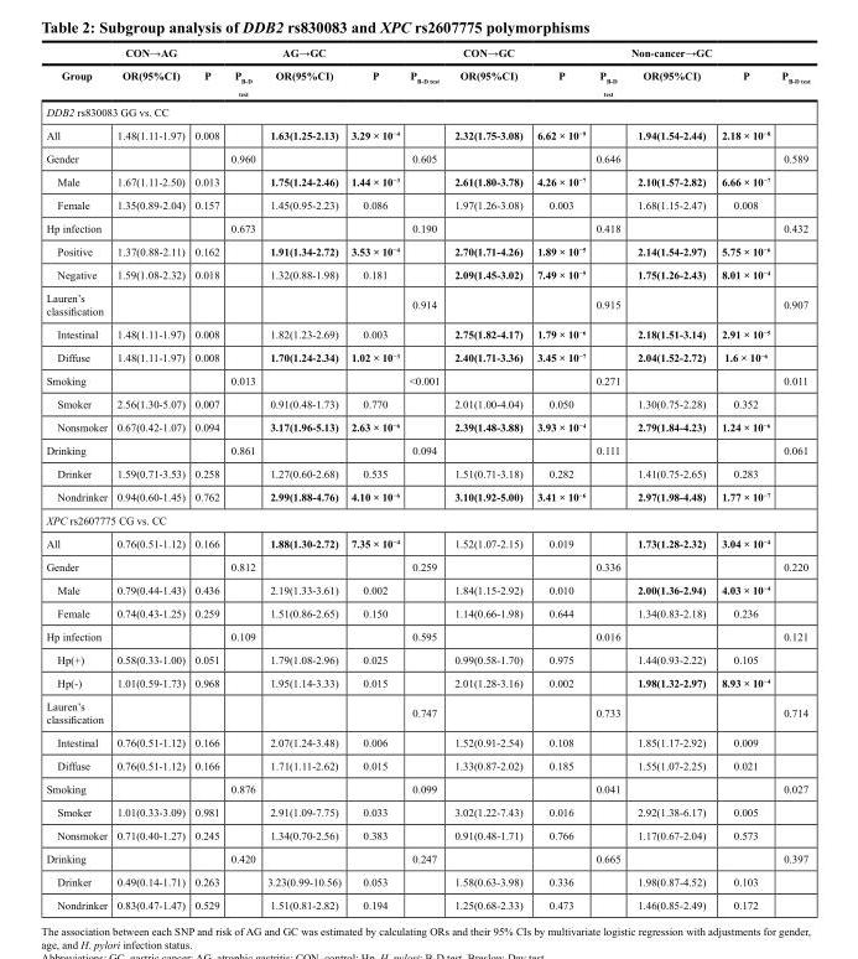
<table><thead><tr><td rowspan="2">Group</td><td colspan="3">CON→AG</td><td colspan="3">AG→GC</td><td colspan="3">CON→GC</td><td colspan="3">Non-cancer→GC</td></tr><tr><td>OR(95%CI)</td><td>P</td><td>P<sub>B-D test</sub></td><td>OR(95%CI)</td><td>P</td><td>P<sub>B-D test</sub></td><td>OR(95%CI)</td><td>P</td><td>P<sub>B-D test</sub></td><td>OR(95%CI)</td><td>P</td><td>P<sub>B-D test</sub></td></tr></thead><tbody><tr><td colspan="13">DDB2 rs830083 GG vs. CC</td></tr><tr><td>All</td><td>1.48(1.11-1.97)</td><td>0.008</td><td></td><td>1.63(1.25-2.13)</td><td>3.29 × 10<sup>−4</sup></td><td></td><td>2.32(1.75-3.08)</td><td>6.62 × 10<sup>−9</sup></td><td></td><td>1.94(1.54-2.44)</td><td>2.18 × 10<sup>−8</sup></td><td></td></tr><tr><td>Gender</td><td></td><td></td><td>0.960</td><td></td><td></td><td>0.605</td><td></td><td></td><td>0.646</td><td></td><td></td><td>0.589</td></tr><tr><td>Male</td><td>1.67(1.11-2.50)</td><td>0.013</td><td></td><td>1.75(1.24-2.46)</td><td>1.44 × 10<sup>−3</sup></td><td></td><td>2.61(1.80-3.78)</td><td>4.26 × 10<sup>−7</sup></td><td></td><td>2.10(1.57-2.82)</td><td>6.66 × 10<sup>−7</sup></td><td></td></tr><tr><td>Female</td><td>1.35(0.89-2.04)</td><td>0.157</td><td></td><td>1.45(0.95-2.23)</td><td>0.086</td><td></td><td>1.97(1.26-3.08)</td><td>0.003</td><td></td><td>1.68(1.15-2.47)</td><td>0.008</td><td></td></tr><tr><td>Hp infection</td><td></td><td></td><td>0.673</td><td></td><td></td><td>0.190</td><td></td><td></td><td>0.418</td><td></td><td></td><td>0.432</td></tr><tr><td>Positive</td><td>1.37(0.88-2.11)</td><td>0.162</td><td></td><td>1.91(1.34-2.72)</td><td>3.53 × 10<sup>−4</sup></td><td></td><td>2.70(1.71-4.26)</td><td>1.89 × 10<sup>−5</sup></td><td></td><td>2.14(1.54-2.97)</td><td>5.75 × 10<sup>−6</sup></td><td></td></tr><tr><td>Negative</td><td>1.59(1.08-2.32)</td><td>0.018</td><td></td><td>1.32(0.88-1.98)</td><td>0.181</td><td></td><td>2.09(1.45-3.02)</td><td>7.49 × 10<sup>−5</sup></td><td></td><td>1.75(1.26-2.43)</td><td>8.01 × 10<sup>−4</sup></td><td></td></tr><tr><td>Lauren’s classification</td><td></td><td></td><td></td><td></td><td></td><td>0.914</td><td></td><td></td><td>0.915</td><td></td><td></td><td>0.907</td></tr><tr><td>Intestinal</td><td>1.48(1.11-1.97)</td><td>0.008</td><td></td><td>1.82(1.23-2.69)</td><td>0.003</td><td></td><td>2.75(1.82-4.17)</td><td>1.79 × 10<sup>−6</sup></td><td></td><td>2.18(1.51-3.14)</td><td>2.91 × 10<sup>−5</sup></td><td></td></tr><tr><td>Diffuse</td><td>1.48(1.11-1.97)</td><td>0.008</td><td></td><td>1.70(1.24-2.34)</td><td>1.02 × 10<sup>−3</sup></td><td></td><td>2.40(1.71-3.36)</td><td>3.45 × 10<sup>−7</sup></td><td></td><td>2.04(1.52-2.72)</td><td>1.6 × 10<sup>−6</sup></td><td></td></tr><tr><td>Smoking</td><td></td><td></td><td>0.013</td><td></td><td></td><td>&lt;0.001</td><td></td><td></td><td>0.271</td><td></td><td></td><td>0.011</td></tr><tr><td>Smoker</td><td>2.56(1.30-5.07)</td><td>0.007</td><td></td><td>0.91(0.48-1.73)</td><td>0.770</td><td></td><td>2.01(1.00-4.04)</td><td>0.050</td><td></td><td>1.30(0.75-2.28)</td><td>0.352</td><td></td></tr><tr><td>Nonsmoker</td><td>0.67(0.42-1.07)</td><td>0.094</td><td></td><td>3.17(1.96-5.13)</td><td>2.63 × 10<sup>−6</sup></td><td></td><td>2.39(1.48-3.88)</td><td>3.93 × 10<sup>−4</sup></td><td></td><td>2.79(1.84-4.23)</td><td>1.24 × 10<sup>−6</sup></td><td></td></tr><tr><td>Drinking</td><td></td><td></td><td>0.861</td><td></td><td></td><td>0.094</td><td></td><td></td><td>0.111</td><td></td><td></td><td>0.061</td></tr><tr><td>Drinker</td><td>1.59(0.71-3.53)</td><td>0.258</td><td></td><td>1.27(0.60-2.68)</td><td>0.535</td><td></td><td>1.51(0.71-3.18)</td><td>0.282</td><td></td><td>1.41(0.75-2.65)</td><td>0.283</td><td></td></tr><tr><td>Nondrinker</td><td>0.94(0.60-1.45)</td><td>0.762</td><td></td><td>2.99(1.88-4.76)</td><td>4.10 × 10<sup>−6</sup></td><td></td><td>3.10(1.92-5.00)</td><td>3.41 × 10<sup>−6</sup></td><td></td><td>2.97(1.98-4.48)</td><td>1.77 × 10<sup>−7</sup></td><td></td></tr><tr><td colspan="13">XPC rs2607775 CG vs. CC</td></tr><tr><td>All</td><td>0.76(0.51-1.12)</td><td>0.166</td><td></td><td>1.88(1.30-2.72)</td><td>7.35 × 10<sup>−4</sup></td><td></td><td>1.52(1.07-2.15)</td><td>0.019</td><td></td><td>1.73(1.28-2.32)</td><td>3.04 × 10<sup>−4</sup></td><td></td></tr><tr><td>Gender</td><td></td><td></td><td>0.812</td><td></td><td></td><td>0.259</td><td></td><td></td><td>0.336</td><td></td><td></td><td>0.220</td></tr><tr><td>Male</td><td>0.79(0.44-1.43)</td><td>0.436</td><td></td><td>2.19(1.33-3.61)</td><td>0.002</td><td></td><td>1.84(1.15-2.92)</td><td>0.010</td><td></td><td>2.00(1.36-2.94)</td><td>4.03 × 10<sup>−4</sup></td><td></td></tr><tr><td>Female</td><td>0.74(0.43-1.25)</td><td>0.259</td><td></td><td>1.51(0.86-2.65)</td><td>0.150</td><td></td><td>1.14(0.66-1.98)</td><td>0.644</td><td></td><td>1.34(0.83-2.18)</td><td>0.236</td><td></td></tr><tr><td>Hp infection</td><td></td><td></td><td>0.109</td><td></td><td></td><td>0.595</td><td></td><td></td><td>0.016</td><td></td><td></td><td>0.121</td></tr><tr><td>Hp(+)</td><td>0.58(0.33-1.00)</td><td>0.051</td><td></td><td>1.79(1.08-2.96)</td><td>0.025</td><td></td><td>0.99(0.58-1.70)</td><td>0.975</td><td></td><td>1.44(0.93-2.22)</td><td>0.105</td><td></td></tr><tr><td>Hp(-)</td><td>1.01(0.59-1.73)</td><td>0.968</td><td></td><td>1.95(1.14-3.33)</td><td>0.015</td><td></td><td>2.01(1.28-3.16)</td><td>0.002</td><td></td><td>1.98(1.32-2.97)</td><td>8.93 × 10<sup>−4</sup></td><td></td></tr><tr><td>Lauren’s classification</td><td></td><td></td><td></td><td></td><td></td><td>0.747</td><td></td><td></td><td>0.733</td><td></td><td></td><td>0.714</td></tr><tr><td>Intestinal</td><td>0.76(0.51-1.12)</td><td>0.166</td><td></td><td>2.07(1.24-3.48)</td><td>0.006</td><td></td><td>1.52(0.91-2.54)</td><td>0.108</td><td></td><td>1.85(1.17-2.92)</td><td>0.009</td><td></td></tr><tr><td>Diffuse</td><td>0.76(0.51-1.12)</td><td>0.166</td><td></td><td>1.71(1.11-2.62)</td><td>0.015</td><td></td><td>1.33(0.87-2.02)</td><td>0.185</td><td></td><td>1.55(1.07-2.25)</td><td>0.021</td><td></td></tr><tr><td>Smoking</td><td></td><td></td><td>0.876</td><td></td><td></td><td>0.099</td><td></td><td></td><td>0.041</td><td></td><td></td><td>0.027</td></tr><tr><td>Smoker</td><td>1.01(0.33-3.09)</td><td>0.981</td><td></td><td>2.91(1.09-7.75)</td><td>0.033</td><td></td><td>3.02(1.22-7.43)</td><td>0.016</td><td></td><td>2.92(1.38-6.17)</td><td>0.005</td><td></td></tr><tr><td>Nonsmoker</td><td>0.71(0.40-1.27)</td><td>0.245</td><td></td><td>1.34(0.70-2.56)</td><td>0.383</td><td></td><td>0.91(0.48-1.71)</td><td>0.766</td><td></td><td>1.17(0.67-2.04)</td><td>0.573</td><td></td></tr><tr><td>Drinking</td><td></td><td></td><td>0.420</td><td></td><td></td><td>0.247</td><td></td><td></td><td>0.665</td><td></td><td></td><td>0.397</td></tr><tr><td>Drinker</td><td>0.49(0.14-1.71)</td><td>0.263</td><td></td><td>3.23(0.99-10.56)</td><td>0.053</td><td></td><td>1.58(0.63-3.98)</td><td>0.336</td><td></td><td>1.98(0.87-4.52)</td><td>0.103</td><td></td></tr><tr><td>Nondrinker</td><td>0.83(0.47-1.47)</td><td>0.529</td><td></td><td>1.51(0.81-2.82)</td><td>0.194</td><td></td><td>1.25(0.68-2.33)</td><td>0.473</td><td></td><td>1.46(0.85-2.49)</td><td>0.172</td><td></td></tr></tbody></table>